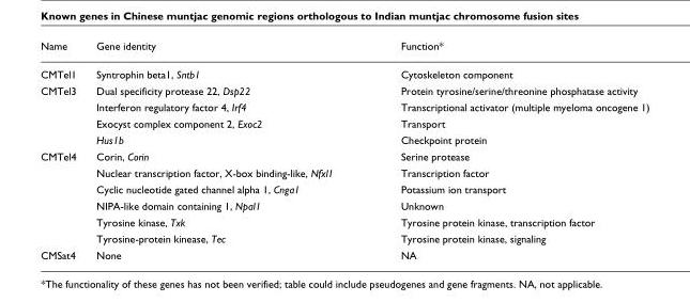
<table><thead><tr><td>Name</td><td>Gene identity</td><td>Function*</td></tr></thead><tbody><tr><td>CMTel1</td><td>Syntrophin beta1, Sntb1</td><td>Cytoskeleton component</td></tr><tr><td rowspan="4">CMTel3</td><td>Dual specificity protease 22, Dsp22</td><td>Protein tyrosine/serine/threonine phosphatase activity</td></tr><tr><td>Interferon regulatory factor 4, Irf4</td><td>Transcriptional activator (multiple myeloma oncogene 1)</td></tr><tr><td>Exocyst complex component 2, Exoc2</td><td>Transport</td></tr><tr><td>Hus1b</td><td>Checkpoint protein</td></tr><tr><td rowspan="6">CMTel4</td><td>Corin, Corin</td><td>Serine protease</td></tr><tr><td>Nuclear transcription factor, X-box binding-like, Nfxl1</td><td>Transcription factor</td></tr><tr><td>Cyclic nucleotide gated channel alpha 1, Cnga1</td><td>Potassium ion transport</td></tr><tr><td>NIPA-like domain containing 1, Npal1</td><td>Unknown</td></tr><tr><td>Tyrosine kinase, Txk</td><td>Tyrosine protein kinase, transcription factor</td></tr><tr><td>Tyrosine-protein kinease, Tec</td><td>Tyrosine protein kinase, signaling</td></tr><tr><td>CMSat4</td><td>None</td><td>NA</td></tr></tbody></table>